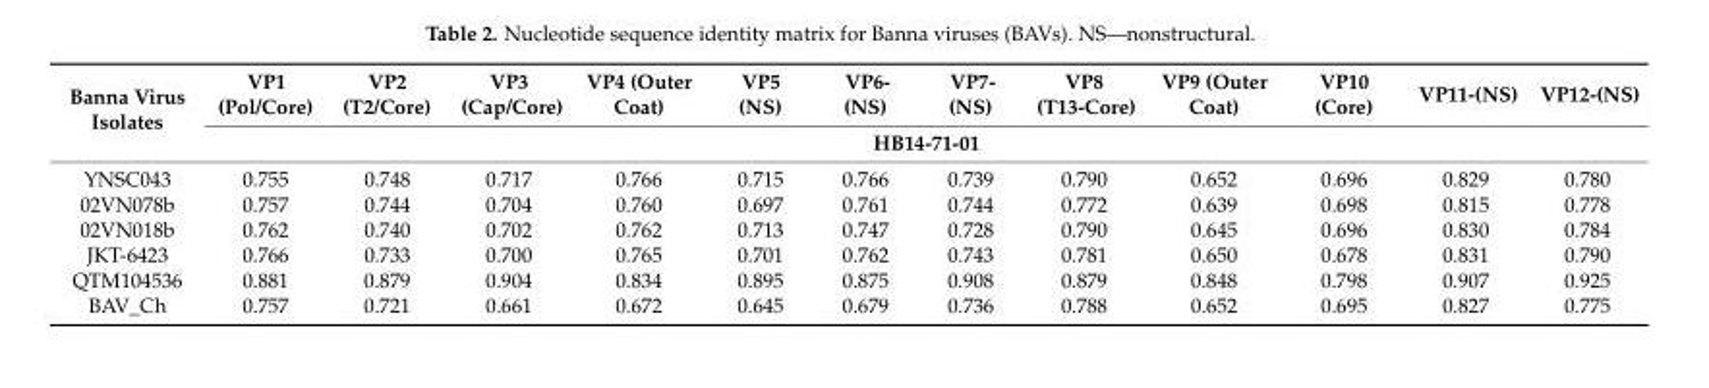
<table><thead><tr><td rowspan="2">Banna Virus Isolates</td><td>VP1 (Pol/Core)</td><td>VP2 (T2/Core)</td><td>VP3 (Cap/Core)</td><td>VP4 (Outer Coat)</td><td>VP5 (NS)</td><td>VP6- (NS)</td><td>VP7- (NS)</td><td>VP8 (T13-Core)</td><td>VP9 (Outer Coat)</td><td>VP10 (Core)</td><td>VP11-(NS)</td><td>VP12-(NS)</td></tr><tr><td colspan="12">HB14-71-01</td></tr></thead><tbody><tr><td>YNSC043</td><td>0.755</td><td>0.748</td><td>0.717</td><td>0.766</td><td>0.715</td><td>0.766</td><td>0.739</td><td>0.790</td><td>0.652</td><td>0.696</td><td>0.829</td><td>0.780</td></tr><tr><td>02VN078b</td><td>0.757</td><td>0.744</td><td>0.704</td><td>0.760</td><td>0.697</td><td>0.761</td><td>0.744</td><td>0.772</td><td>0.639</td><td>0.698</td><td>0.815</td><td>0.778</td></tr><tr><td>02VN018b</td><td>0.762</td><td>0.740</td><td>0.702</td><td>0.762</td><td>0.713</td><td>0.747</td><td>0.728</td><td>0.790</td><td>0.645</td><td>0.696</td><td>0.830</td><td>0.784</td></tr><tr><td>JKT-6423</td><td>0.766</td><td>0.733</td><td>0.700</td><td>0.765</td><td>0.701</td><td>0.762</td><td>0.743</td><td>0.781</td><td>0.650</td><td>0.678</td><td>0.831</td><td>0.790</td></tr><tr><td>QTM104536</td><td>0.881</td><td>0.879</td><td>0.904</td><td>0.834</td><td>0.895</td><td>0.875</td><td>0.908</td><td>0.879</td><td>0.848</td><td>0.798</td><td>0.907</td><td>0.925</td></tr><tr><td>BAV_Ch</td><td>0.757</td><td>0.721</td><td>0.661</td><td>0.672</td><td>0.645</td><td>0.679</td><td>0.736</td><td>0.788</td><td>0.652</td><td>0.695</td><td>0.827</td><td>0.775</td></tr></tbody></table>